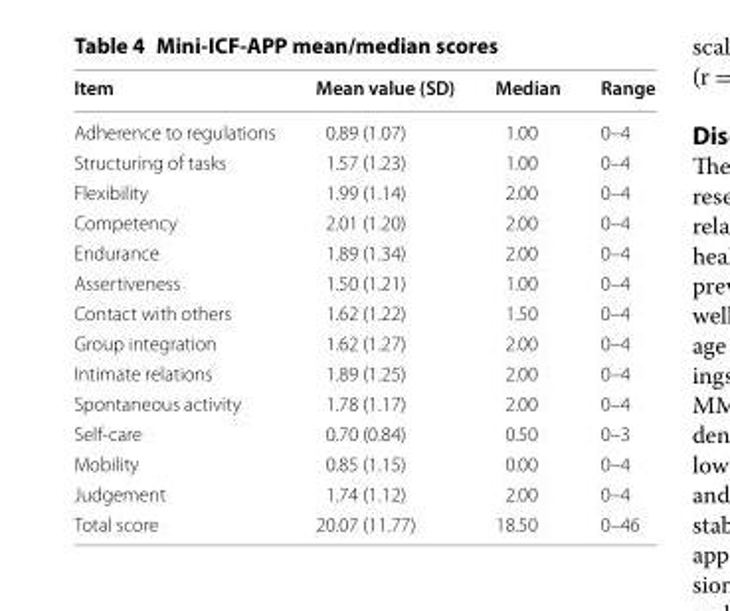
<table><thead><tr><td>Item</td><td>Mean value (SD)</td><td>Median</td><td>Range</td></tr></thead><tbody><tr><td>Adherence to regulations</td><td>0.89 (1.07)</td><td>1.00</td><td>0–4</td></tr><tr><td>Structuring of tasks</td><td>1.57 (1.23)</td><td>1.00</td><td>0–4</td></tr><tr><td>Flexibility</td><td>1.99 (1.14)</td><td>2.00</td><td>0–4</td></tr><tr><td>Competency</td><td>2.01 (1.20)</td><td>2.00</td><td>0–4</td></tr><tr><td>Endurance</td><td>1.89 (1.34)</td><td>2.00</td><td>0–4</td></tr><tr><td>Assertiveness</td><td>1.50 (1.21)</td><td>1.00</td><td>0–4</td></tr><tr><td>Contact with others</td><td>1.62 (1.22)</td><td>1.50</td><td>0–4</td></tr><tr><td>Group integration</td><td>1.62 (1.27)</td><td>2.00</td><td>0–4</td></tr><tr><td>Intimate relations</td><td>1.89 (1.25)</td><td>2.00</td><td>0–4</td></tr><tr><td>Spontaneous activity</td><td>1.78 (1.17)</td><td>2.00</td><td>0–4</td></tr><tr><td>Self-care</td><td>0.70 (0.84)</td><td>0.50</td><td>0–3</td></tr><tr><td>Mobility</td><td>0.85 (1.15)</td><td>0.00</td><td>0–4</td></tr><tr><td>Judgement</td><td>1.74 (1.12)</td><td>2.00</td><td>0–4</td></tr><tr><td>Total score</td><td>20.07 (11.77)</td><td>18.50</td><td>0–46</td></tr></tbody></table>